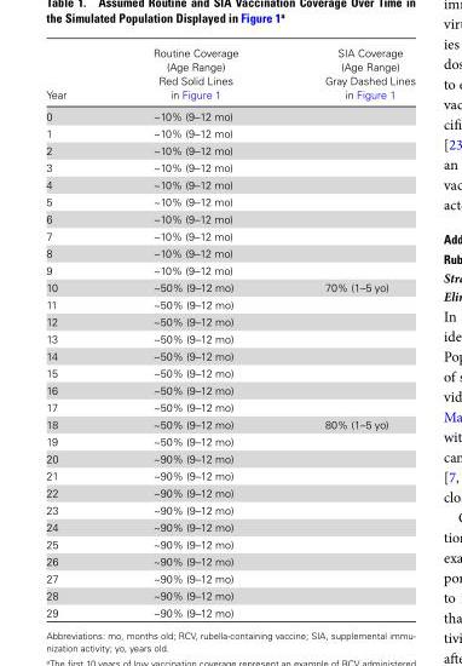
<table><thead><tr><td>Year</td><td>Routine Coverage (Age Range) Red Solid Lines in Figure 1</td><td>SIA Coverage (Age Range) Gray Dashed Lines in Figure 1</td></tr></thead><tbody><tr><td>0</td><td>~10% (9–12 mo)</td><td></td></tr><tr><td>1</td><td>~10% (9–12 mo)</td><td></td></tr><tr><td>2</td><td>~10% (9–12 mo)</td><td></td></tr><tr><td>3</td><td>~10% (9–12 mo)</td><td></td></tr><tr><td>4</td><td>~10% (9–12 mo)</td><td></td></tr><tr><td>5</td><td>~10% (9–12 mo)</td><td></td></tr><tr><td>6</td><td>~10% (9–12 mo)</td><td></td></tr><tr><td>7</td><td>~10% (9–12 mo)</td><td></td></tr><tr><td>8</td><td>~10% (9–12 mo)</td><td></td></tr><tr><td>9</td><td>~10% (9–12 mo)</td><td></td></tr><tr><td>10</td><td>~50% (9–12 mo)</td><td>70% (1–5 yo)</td></tr><tr><td>11</td><td>~50% (9–12 mo)</td><td></td></tr><tr><td>12</td><td>~50% (9–12 mo)</td><td></td></tr><tr><td>13</td><td>~50% (9–12 mo)</td><td></td></tr><tr><td>14</td><td>~50% (9–12 mo)</td><td></td></tr><tr><td>15</td><td>~50% (9–12 mo)</td><td></td></tr><tr><td>16</td><td>~50% (9–12 mo)</td><td></td></tr><tr><td>17</td><td>~50% (9–12 mo)</td><td></td></tr><tr><td>18</td><td>~50% (9–12 mo)</td><td>80% (1–5 yo)</td></tr><tr><td>19</td><td>~50% (9–12 mo)</td><td></td></tr><tr><td>20</td><td>~90% (9–12 mo)</td><td></td></tr><tr><td>21</td><td>~90% (9–12 mo)</td><td></td></tr><tr><td>22</td><td>~90% (9–12 mo)</td><td></td></tr><tr><td>23</td><td>~90% (9–12 mo)</td><td></td></tr><tr><td>24</td><td>~90% (9–12 mo)</td><td></td></tr><tr><td>25</td><td>~90% (9–12 mo)</td><td></td></tr><tr><td>26</td><td>~90% (9–12 mo)</td><td></td></tr><tr><td>27</td><td>~90% (9–12 mo)</td><td></td></tr><tr><td>28</td><td>~90% (9–12 mo)</td><td></td></tr><tr><td>29</td><td>~90% (9–12 mo)</td><td></td></tr></tbody></table>